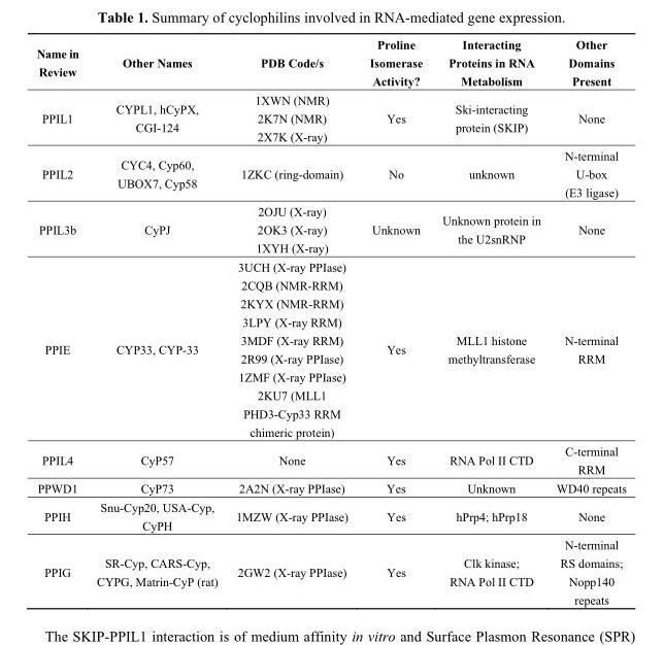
<table><thead><tr><td>Name in Review</td><td>Other Names</td><td>PDB Code/s</td><td>Proline Isomerase Activity?</td><td>Interacting Proteins in RNA Metabolism</td><td>Other Domains Present</td></tr></thead><tbody><tr><td>PPIL1</td><td>CYPL1, hCyPX, CGI-124</td><td>1XWN (NMR) 2K7N (NMR) 2X7K (X-ray)</td><td>Yes</td><td>Ski-interacting protein (SKIP)</td><td>None</td></tr><tr><td>PPIL2</td><td>CYC4, Cyp60, UBOX7, Cyp58</td><td>1ZKC (ring-domain)</td><td>No</td><td>unknown</td><td>N-terminal U-box (E3 ligase)</td></tr><tr><td>PPIL3b</td><td>CyPJ</td><td>2OJU (X-ray) 2OK3 (X-ray) 1XYH (X-ray)</td><td>Unknown</td><td>Unknown protein in the U2snRNP</td><td>None</td></tr><tr><td>PPIE</td><td>CYP33, CYP-33</td><td>3UCH (X-ray PPIase) 2CQB (NMR-RRM) 2KYX (NMR-RRM) 3LPY (X-ray RRM) 3MDF (X-ray RRM) 2R99 (X-ray PPIase) 1ZMF (X-ray PPIase) 2KU7 (MLL1 PHD3-Cyp33 RRM chimeric protein)</td><td>Yes</td><td>MLL1 histone methyltransferase</td><td>N-terminal RRM</td></tr><tr><td>PPIL4</td><td>CyP57</td><td>None</td><td>Yes</td><td>RNA Pol II CTD</td><td>C-terminal RRM</td></tr><tr><td>PPWD1</td><td>CyP73</td><td>2A2N (X-ray PPIase)</td><td>Yes</td><td>Unknown</td><td>WD40 repeats</td></tr><tr><td>PPIH</td><td>Snu-Cyp20, USA-Cyp, CyPH</td><td>1MZW (X-ray PPIase)</td><td>Yes</td><td>hPrp4; hPrp18</td><td>None</td></tr><tr><td>PPIG</td><td>SR-Cyp, CARS-Cyp, CYPG, Matrin-CyP (rat)</td><td>2GW2 (X-ray PPIase)</td><td>Yes</td><td>Clk kinase; RNA Pol II CTD</td><td>N-terminal RS domains; Nopp140 repeats</td></tr></tbody></table>